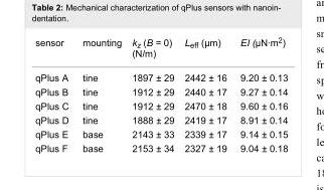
<table><tbody><tr><td>sensor</td><td>mounting</td><td>k<sub>z</sub> (B = 0) (N/m)</td><td>L<sub>eff</sub> (μm)</td><td>EI (μN·m<sup>2</sup>)</td></tr><tr><td>qPlus A</td><td>tine</td><td>1897 ± 29</td><td>2442 ± 16</td><td>9.20 ± 0.13</td></tr><tr><td>qPlus B</td><td>tine</td><td>1912 ± 29</td><td>2440 ± 17</td><td>9.27 ± 0.14</td></tr><tr><td>qPlus C</td><td>tine</td><td>1912 ± 29</td><td>2470 ± 18</td><td>9.60 ± 0.16</td></tr><tr><td>qPlus D</td><td>tine</td><td>1888 ± 29</td><td>2419 ± 17</td><td>8.91 ± 0.14</td></tr><tr><td>qPlus E</td><td>base</td><td>2143 ± 33</td><td>2339 ± 17</td><td>9.14 ± 0.15</td></tr><tr><td>qPlus F</td><td>base</td><td>2153 ± 34</td><td>2327 ± 19</td><td>9.04 ± 0.18</td></tr></tbody></table>